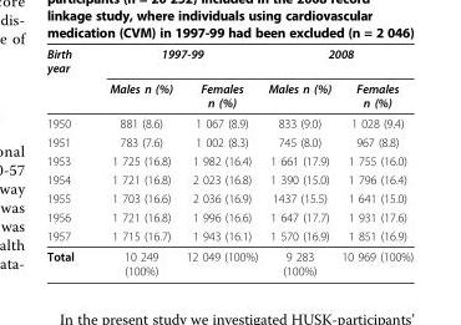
<table><thead><tr><td rowspan="2">Birth year</td><td colspan="2">1997-99</td><td colspan="2">2008</td></tr><tr><td>Males n (%)</td><td>Females n (%)</td><td>Males n (%)</td><td>Females n (%)</td></tr></thead><tbody><tr><td>1950</td><td>881 (8.6)</td><td>1 067 (8.9)</td><td>833 (9.0)</td><td>1 028 (9.4)</td></tr><tr><td>1951</td><td>783 (7.6)</td><td>1 002 (8.3)</td><td>745 (8.0)</td><td>967 (8.8)</td></tr><tr><td>1953</td><td>1 725 (16.8)</td><td>1 982 (16.4)</td><td>1 661 (17.9)</td><td>1 755 (16.0)</td></tr><tr><td>1954</td><td>1 721 (16.8)</td><td>2 023 (16.8)</td><td>1 390 (15.0)</td><td>1 796 (16.4)</td></tr><tr><td>1955</td><td>1 703 (16.6)</td><td>2 036 (16.9)</td><td>1437 (15.5)</td><td>1 641 (15.0)</td></tr><tr><td>1956</td><td>1 721 (16.8)</td><td>1 996 (16.6)</td><td>1 647 (17.7)</td><td>1 931 (17.6)</td></tr><tr><td>1957</td><td>1 715 (16.7)</td><td>1 943 (16.1)</td><td>1 570 (16.9)</td><td>1 851 (16.9)</td></tr><tr><td>Total</td><td>10 249 (100%)</td><td>12 049 (100%)</td><td>9 283 (100%)</td><td>10 969 (100%)</td></tr></tbody></table>